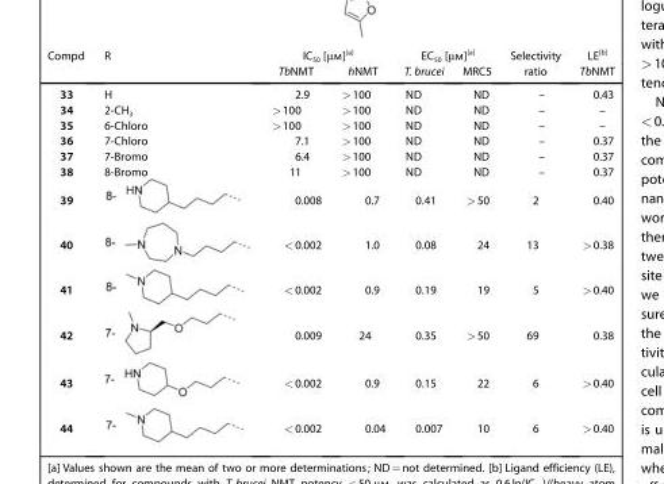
<table><thead><tr><td rowspan="2">Compd</td><td rowspan="2">R</td><td colspan="2">IC<sub>50</sub> [μm]<sup>[a]</sup></td><td colspan="2">EC<sub>50</sub> [μm]<sup>[a]</sup></td><td rowspan="2">Selectivity ratio</td><td rowspan="2">LE<sup>[b]</sup> TbNMT</td></tr><tr><td>TbNMT</td><td>hNMT</td><td>T. brucei</td><td>MRC5</td></tr></thead><tbody><tr><td>33</td><td>H</td><td>2.9</td><td>&gt;100</td><td>ND</td><td>ND</td><td>–</td><td>0.43</td></tr><tr><td>34</td><td>2-CH<sub>3</sub></td><td>&gt;100</td><td>&gt;100</td><td>ND</td><td>ND</td><td>–</td><td>–</td></tr><tr><td>35</td><td>6-Chloro</td><td>&gt;100</td><td>&gt;100</td><td>ND</td><td>ND</td><td>–</td><td>–</td></tr><tr><td>36</td><td>7-Chloro</td><td>7.1</td><td>&gt;100</td><td>ND</td><td>ND</td><td>–</td><td>0.37</td></tr><tr><td>37</td><td>7-Bromo</td><td>6.4</td><td>&gt;100</td><td>ND</td><td>ND</td><td>–</td><td>0.37</td></tr><tr><td>38</td><td>8-Bromo</td><td>11</td><td>&gt;100</td><td>ND</td><td>ND</td><td>–</td><td>0.37</td></tr><tr><td>39</td><td></td><td>0.008</td><td>0.7</td><td>0.41</td><td>&gt;50</td><td>2</td><td>0.40</td></tr><tr><td>40</td><td></td><td>&lt;0.002</td><td>1.0</td><td>0.08</td><td>24</td><td>13</td><td>&gt;0.38</td></tr><tr><td>41</td><td></td><td>&lt;0.002</td><td>0.9</td><td>0.19</td><td>19</td><td>5</td><td>&gt;0.40</td></tr><tr><td>42</td><td></td><td>0.009</td><td>24</td><td>0.35</td><td>&gt;50</td><td>69</td><td>0.38</td></tr><tr><td>43</td><td></td><td>&lt;0.002</td><td>0.9</td><td>0.15</td><td>22</td><td>6</td><td>&gt;0.40</td></tr><tr><td>44</td><td></td><td>&lt;0.002</td><td>0.04</td><td>0.007</td><td>10</td><td>6</td><td>&gt;0.40</td></tr></tbody></table>